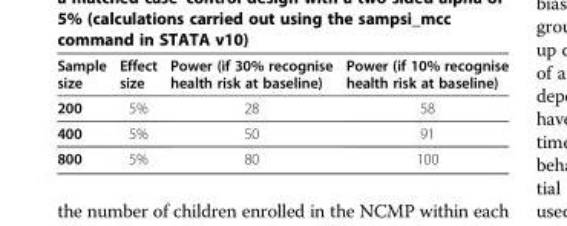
<table><thead><tr><td>Sample size</td><td>Effect size</td><td>Power (if 30% recognise health risk at baseline)</td><td>Power (if 10% recognise health risk at baseline)</td></tr></thead><tbody><tr><td>200</td><td>5%</td><td>28</td><td>58</td></tr><tr><td>400</td><td>5%</td><td>50</td><td>91</td></tr><tr><td>800</td><td>5%</td><td>80</td><td>100</td></tr></tbody></table>